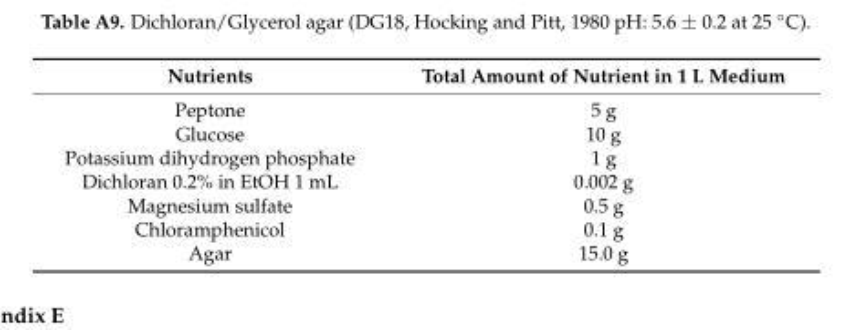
<table><thead><tr><td>Nutrients</td><td>Total Amount of Nutrient in 1 L Medium</td></tr></thead><tbody><tr><td>Peptone</td><td>5 g</td></tr><tr><td>Glucose</td><td>10 g</td></tr><tr><td>Potassium dihydrogen phosphate</td><td>1 g</td></tr><tr><td>Dichloran 0.2% in EtOH 1 mL</td><td>0.002 g</td></tr><tr><td>Magnesium sulfate</td><td>0.5 g</td></tr><tr><td>Chloramphenicol</td><td>0.1 g</td></tr><tr><td>Agar</td><td>15.0 g</td></tr></tbody></table>